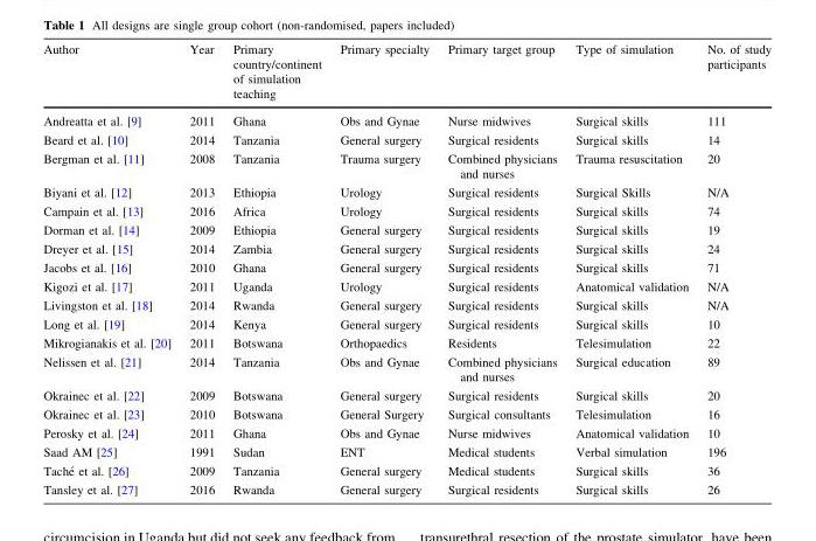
<table><thead><tr><td>Author</td><td>Year</td><td>Primary country/continent of simulation teaching</td><td>Primary specialty</td><td>Primary target group</td><td>Type of simulation</td><td>No. of study participants</td></tr></thead><tbody><tr><td>Andreatta et al. [9]</td><td>2011</td><td>Ghana</td><td>Obs and Gynae</td><td>Nurse midwives</td><td>Surgical skills</td><td>111</td></tr><tr><td>Beard et al. [10]</td><td>2014</td><td>Tanzania</td><td>General surgery</td><td>Surgical residents</td><td>Surgical skills</td><td>14</td></tr><tr><td>Bergman et al. [11]</td><td>2008</td><td>Tanzania</td><td>Trauma surgery</td><td>Combined physicians and nurses</td><td>Trauma resuscitation</td><td>20</td></tr><tr><td>Biyani et al. [12]</td><td>2013</td><td>Ethiopia</td><td>Urology</td><td>Surgical residents</td><td>Surgical Skills</td><td>N/A</td></tr><tr><td>Campain et al. [13]</td><td>2016</td><td>Africa</td><td>Urology</td><td>Surgical residents</td><td>Surgical skills</td><td>74</td></tr><tr><td>Dorman et al. [14]</td><td>2009</td><td>Ethiopia</td><td>General surgery</td><td>Surgical residents</td><td>Surgical skills</td><td>19</td></tr><tr><td>Dreyer et al. [15]</td><td>2014</td><td>Zambia</td><td>General surgery</td><td>Surgical residents</td><td>Surgical skills</td><td>24</td></tr><tr><td>Jacobs et al. [16]</td><td>2010</td><td>Ghana</td><td>General surgery</td><td>Surgical residents</td><td>Surgical skills</td><td>71</td></tr><tr><td>Kigozi et al. [17]</td><td>2011</td><td>Uganda</td><td>Urology</td><td>Surgical residents</td><td>Anatomical validation</td><td>N/A</td></tr><tr><td>Livingston et al. [18]</td><td>2014</td><td>Rwanda</td><td>General surgery</td><td>Surgical residents</td><td>Surgical skills</td><td>N/A</td></tr><tr><td>Long et al. [19]</td><td>2014</td><td>Kenya</td><td>General surgery</td><td>Surgical residents</td><td>Surgical skills</td><td>10</td></tr><tr><td>Mikrogianakis et al. [20]</td><td>2011</td><td>Botswana</td><td>Orthopaedics</td><td>Residents</td><td>Telesimulation</td><td>22</td></tr><tr><td>Nelissen et al. [21]</td><td>2014</td><td>Tanzania</td><td>Obs and Gynae</td><td>Combined physicians and nurses</td><td>Surgical education</td><td>89</td></tr><tr><td>Okrainec et al. [22]</td><td>2009</td><td>Botswana</td><td>General surgery</td><td>Surgical residents</td><td>Surgical skills</td><td>20</td></tr><tr><td>Okrainec et al. [23]</td><td>2010</td><td>Botswana</td><td>General Surgery</td><td>Surgical consultants</td><td>Telesimulation</td><td>16</td></tr><tr><td>Perosky et al. [24]</td><td>2011</td><td>Ghana</td><td>Obs and Gynae</td><td>Nurse midwives</td><td>Anatomical validation</td><td>10</td></tr><tr><td>Saad AM [25]</td><td>1991</td><td>Sudan</td><td>ENT</td><td>Medical students</td><td>Verbal simulation</td><td>196</td></tr><tr><td>Tache´ et al. [26]</td><td>2009</td><td>Tanzania</td><td>General surgery</td><td>Medical students</td><td>Surgical skills</td><td>36</td></tr><tr><td>Tansley et al. [27]</td><td>2016</td><td>Rwanda</td><td>General surgery</td><td>Surgical residents</td><td>Surgical skills</td><td>26</td></tr></tbody></table>